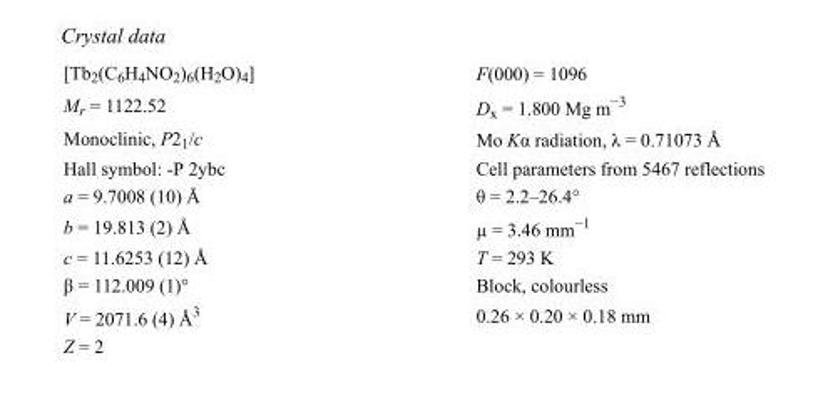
<table><tbody><tr><td>[Tb<sub>2</sub>(C<sub>6</sub>H<sub>4</sub>NO<sub>2</sub>)<sub>6</sub>(H<sub>2</sub>O)<sub>4</sub>]</td><td>F(000) = 1096</td></tr><tr><td>M<sub>r</sub> = 1122.52</td><td>D<sub>x</sub> = 1.800 Mg m<sup>−3</sup></td></tr><tr><td>Monoclinic, P2<sub>1</sub>/c</td><td>Mo Kα radiation, λ = 0.71073 Å</td></tr><tr><td>Hall symbol: -P 2ybc</td><td>Cell parameters from 5467 reflections</td></tr><tr><td>a = 9.7008 (10) Å</td><td>θ = 2.2–26.4°</td></tr><tr><td>b = 19.813 (2) Å</td><td>µ = 3.46 mm<sup>−1</sup></td></tr><tr><td>c = 11.6253 (12) Å</td><td>T = 293 K</td></tr><tr><td>β = 112.009 (1)°</td><td>Block, colourless</td></tr><tr><td>V = 2071.6 (4) Å<sup>3</sup></td><td>0.26 × 0.20 × 0.18 mm</td></tr><tr><td>Z = 2</td><td></td></tr></tbody></table>